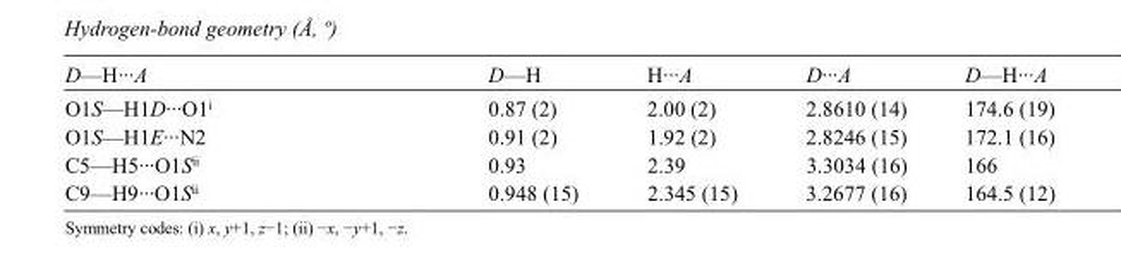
<table><tbody><tr><td>D—H···A</td><td>D—H</td><td>H···A</td><td>D···A</td><td>D—H···A</td></tr><tr><td>O1S—H1D···O1<sup>i</sup></td><td>0.87 (2)</td><td>2.00 (2)</td><td>2.8610 (14)</td><td>174.6 (19)</td></tr><tr><td>O1S—H1E···N2</td><td>0.91 (2)</td><td>1.92 (2)</td><td>2.8246 (15)</td><td>172.1 (16)</td></tr><tr><td>C5—H5···O1S<sup>ii</sup></td><td>0.93</td><td>2.39</td><td>3.3034 (16)</td><td>166</td></tr><tr><td>C9—H9···O1S<sup>ii</sup></td><td>0.948 (15)</td><td>2.345 (15)</td><td>3.2677 (16)</td><td>164.5 (12)</td></tr></tbody></table>